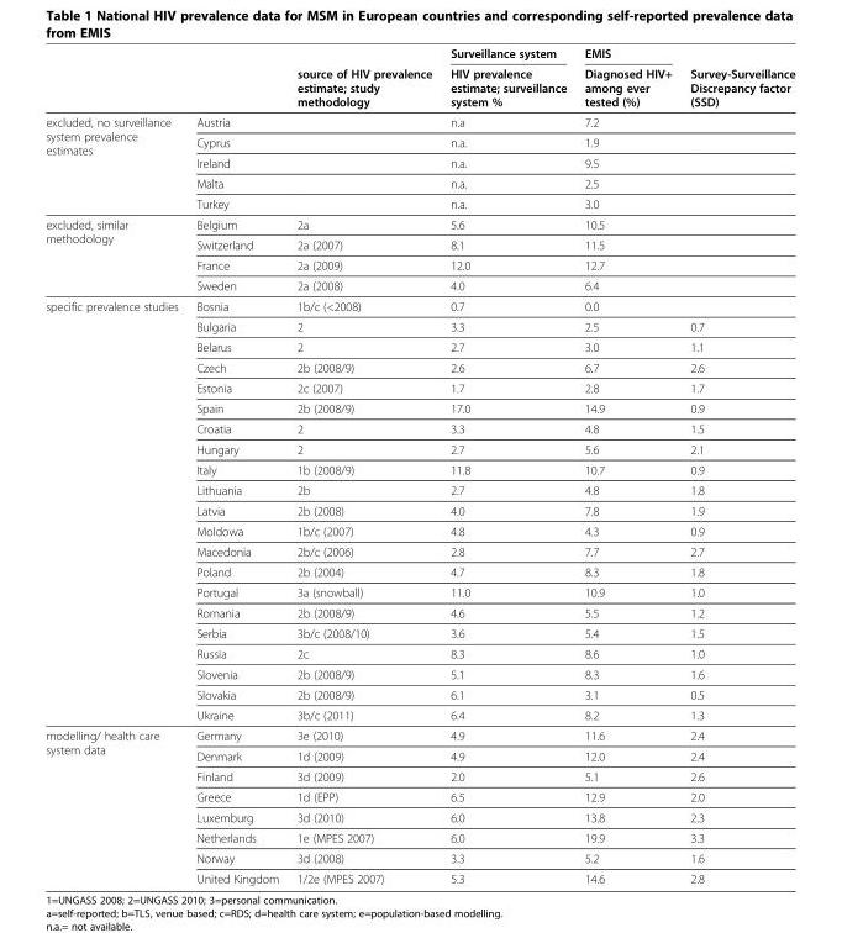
<table><thead><tr><td rowspan="2"></td><td rowspan="2"></td><td rowspan="2">source of HIV prevalence estimate; study methodology</td><td rowspan="2">Surveillance system HIV prevalence estimate; surveillance system %</td><td rowspan="2">EMIS Diagnosed HIV+ among ever tested (%)</td><td rowspan="2">Survey-Surveillance Discrepancy factor (SSD)</td></tr><tr></tr></thead><tbody><tr><td rowspan="5">excluded, no surveillance system prevalence estimates</td><td>Austria</td><td></td><td>n.a</td><td>7.2</td><td></td></tr><tr><td>Cyprus</td><td></td><td>n.a.</td><td>1.9</td><td></td></tr><tr><td>Ireland</td><td></td><td>n.a.</td><td>9.5</td><td></td></tr><tr><td>Malta</td><td></td><td>n.a.</td><td>2.5</td><td></td></tr><tr><td>Turkey</td><td></td><td>n.a.</td><td>3.0</td><td></td></tr><tr><td rowspan="4">excluded, similar methodology</td><td>Belgium</td><td>2a</td><td>5.6</td><td>10.5</td><td></td></tr><tr><td>Switzerland</td><td>2a (2007)</td><td>8.1</td><td>11.5</td><td></td></tr><tr><td>France</td><td>2a (2009)</td><td>12.0</td><td>12.7</td><td></td></tr><tr><td>Sweden</td><td>2a (2008)</td><td>4.0</td><td>6.4</td><td></td></tr><tr><td rowspan="21">specific prevalence studies</td><td>Bosnia</td><td>1b/c (&lt;2008)</td><td>0.7</td><td>0.0</td><td></td></tr><tr><td>Bulgaria</td><td>2</td><td>3.3</td><td>2.5</td><td>0.7</td></tr><tr><td>Belarus</td><td>2</td><td>2.7</td><td>3.0</td><td>1.1</td></tr><tr><td>Czech</td><td>2b (2008/9)</td><td>2.6</td><td>6.7</td><td>2.6</td></tr><tr><td>Estonia</td><td>2c (2007)</td><td>1.7</td><td>2.8</td><td>1.7</td></tr><tr><td>Spain</td><td>2b (2008/9)</td><td>17.0</td><td>14.9</td><td>0.9</td></tr><tr><td>Croatia</td><td>2</td><td>3.3</td><td>4.8</td><td>1.5</td></tr><tr><td>Hungary</td><td>2</td><td>2.7</td><td>5.6</td><td>2.1</td></tr><tr><td>Italy</td><td>1b (2008/9)</td><td>11.8</td><td>10.7</td><td>0.9</td></tr><tr><td>Lithuania</td><td>2b</td><td>2.7</td><td>4.8</td><td>1.8</td></tr><tr><td>Latvia</td><td>2b (2008)</td><td>4.0</td><td>7.8</td><td>1.9</td></tr><tr><td>Moldowa</td><td>1b/c (2007)</td><td>4.8</td><td>4.3</td><td>0.9</td></tr><tr><td>Macedonia</td><td>2b/c (2006)</td><td>2.8</td><td>7.7</td><td>2.7</td></tr><tr><td>Poland</td><td>2b (2004)</td><td>4.7</td><td>8.3</td><td>1.8</td></tr><tr><td>Portugal</td><td>3a (snowball)</td><td>11.0</td><td>10.9</td><td>1.0</td></tr><tr><td>Romania</td><td>2b (2008/9)</td><td>4.6</td><td>5.5</td><td>1.2</td></tr><tr><td>Serbia</td><td>3b/c (2008/10)</td><td>3.6</td><td>5.4</td><td>1.5</td></tr><tr><td>Russia</td><td>2c</td><td>8.3</td><td>8.6</td><td>1.0</td></tr><tr><td>Slovenia</td><td>2b (2008/9)</td><td>5.1</td><td>8.3</td><td>1.6</td></tr><tr><td>Slovakia</td><td>2b (2008/9)</td><td>6.1</td><td>3.1</td><td>0.5</td></tr><tr><td>Ukraine</td><td>3b/c (2011)</td><td>6.4</td><td>8.2</td><td>1.3</td></tr><tr><td rowspan="8">modelling/ health care system data</td><td>Germany</td><td>3e (2010)</td><td>4.9</td><td>11.6</td><td>2.4</td></tr><tr><td>Denmark</td><td>1d (2009)</td><td>4.9</td><td>12.0</td><td>2.4</td></tr><tr><td>Finland</td><td>3d (2009)</td><td>2.0</td><td>5.1</td><td>2.6</td></tr><tr><td>Greece</td><td>1d (EPP)</td><td>6.5</td><td>12.9</td><td>2.0</td></tr><tr><td>Luxemburg</td><td>3d (2010)</td><td>6.0</td><td>13.8</td><td>2.3</td></tr><tr><td>Netherlands</td><td>1e (MPES 2007)</td><td>6.0</td><td>19.9</td><td>3.3</td></tr><tr><td>Norway</td><td>3d (2008)</td><td>3.3</td><td>5.2</td><td>1.6</td></tr><tr><td>United Kingdom</td><td>1/2e (MPES 2007)</td><td>5.3</td><td>14.6</td><td>2.8</td></tr></tbody></table>